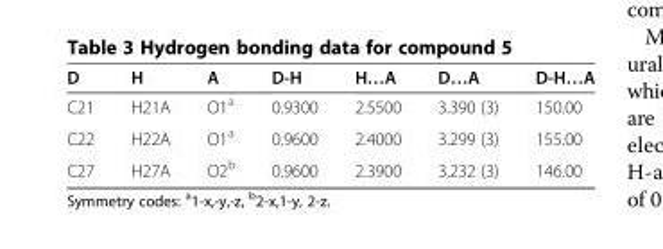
<table><thead><tr><td>D</td><td>H</td><td>A</td><td>D-H</td><td>H…A</td><td>D…A</td><td>D-H…A</td></tr></thead><tbody><tr><td>C21</td><td>H21A</td><td>O1<sup>a</sup></td><td>0.9300</td><td>2.5500</td><td>3.390 (3)</td><td>150.00</td></tr><tr><td>C22</td><td>H22A</td><td>O1<sup>a</sup></td><td>0.9600</td><td>2.4000</td><td>3.299 (3)</td><td>155.00</td></tr><tr><td>C27</td><td>H27A</td><td>O2<sup>b</sup></td><td>0.9600</td><td>2.3900</td><td>3.232 (3)</td><td>146.00</td></tr></tbody></table>